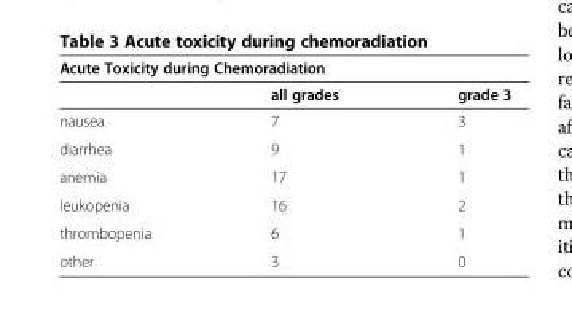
<table><thead><tr><td colspan="3">Acute Toxicity during Chemoradiation</td></tr><tr><td></td><td>all grades</td><td>grade 3</td></tr></thead><tbody><tr><td>nausea</td><td>7</td><td>3</td></tr><tr><td>diarrhea</td><td>9</td><td>1</td></tr><tr><td>anemia</td><td>17</td><td>1</td></tr><tr><td>leukopenia</td><td>16</td><td>2</td></tr><tr><td>thrombopenia</td><td>6</td><td>1</td></tr><tr><td>other</td><td>3</td><td>0</td></tr></tbody></table>